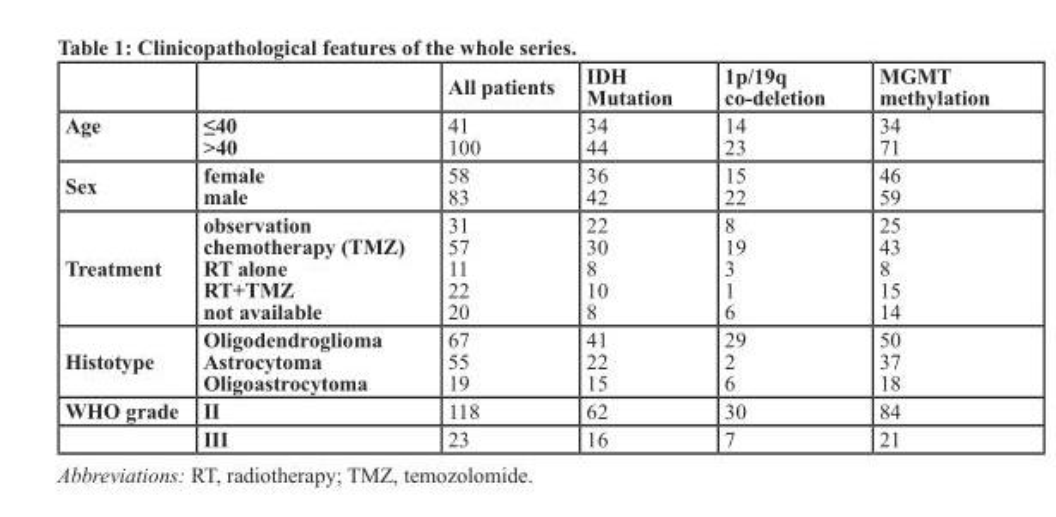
<table><thead><tr><td></td><td></td><td>All patients</td><td>IDH Mutation</td><td>1p/19q co-deletion</td><td>MGMT methylation</td></tr></thead><tbody><tr><td>Age</td><td>≤40 &gt;40</td><td>41 100</td><td>34 44</td><td>14 23</td><td>34 71</td></tr><tr><td>Sex</td><td>female male</td><td>58 83</td><td>36 42</td><td>15 22</td><td>46 59</td></tr><tr><td>Treatment</td><td>observation chemotherapy (TMZ) RT alone RT+TMZ not available</td><td>31 57 11 22 20</td><td>22 30 8 10 8</td><td>8 19 3 1 6</td><td>25 43 8 15 14</td></tr><tr><td>Histotype</td><td>Oligodendroglioma Astrocytoma Oligoastrocytoma</td><td>67 55 19</td><td>41 22 15</td><td>29 2 6</td><td>50 37 18</td></tr><tr><td rowspan="2">WHO grade</td><td>II</td><td>118</td><td>62</td><td>30</td><td>84</td></tr><tr><td>III</td><td>23</td><td>16</td><td>7</td><td>21</td></tr></tbody></table>